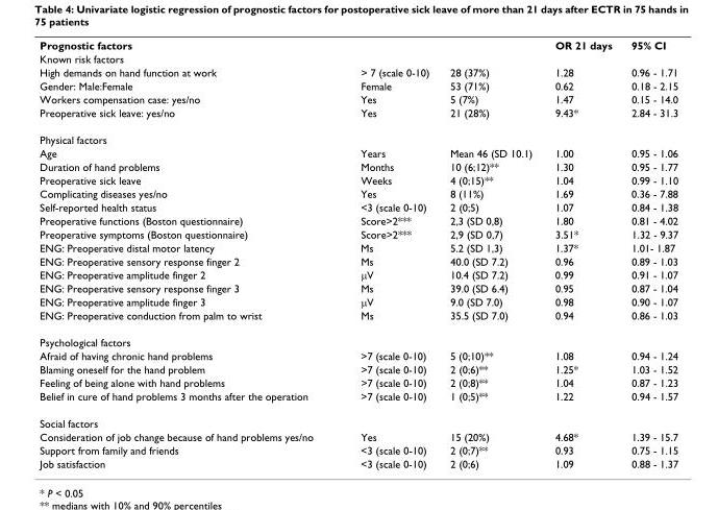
<table><tbody><tr><td>Prognostic factors</td><td></td><td></td><td>OR 21 days</td><td>95% CI</td></tr><tr><td colspan="5">Known risk factors</td></tr><tr><td>High demands on hand function at work</td><td>&gt; 7 (scale 0-10)</td><td>28 (37%)</td><td>1.28</td><td>0.96 - 1.71</td></tr><tr><td>Gender: Male:Female</td><td>Female</td><td>53 (71%)</td><td>0.62</td><td>0.18 - 2.15</td></tr><tr><td>Workers compensation case: yes/no</td><td>Yes</td><td>5 (7%)</td><td>1.47</td><td>0.15 - 14.0</td></tr><tr><td>Preoperative sick leave: yes/no</td><td>Yes</td><td>21 (28%)</td><td>9.43*</td><td>2.84 - 31.3</td></tr><tr><td colspan="5">Physical factors</td></tr><tr><td>Age</td><td>Years</td><td>Mean 46 (SD 10.1)</td><td>1.00</td><td>0.95 - 1.06</td></tr><tr><td>Duration of hand problems</td><td>Months</td><td>10 (6;12)**</td><td>1.30</td><td>0.95 - 1.77</td></tr><tr><td>Preoperative sick leave</td><td>Weeks</td><td>4 (0;15)**</td><td>1.04</td><td>0.99 - 1.10</td></tr><tr><td>Complicating diseases yes/no</td><td>Yes</td><td>8 (11%)</td><td>1.69</td><td>0.36 - 7.88</td></tr><tr><td>Self-reported health status</td><td>&lt;3 (scale 0-10)</td><td>2 (0;5)</td><td>1.07</td><td>0.84 - 1.38</td></tr><tr><td>Preoperative functions (Boston questionnaire)</td><td>Score&gt;2***</td><td>2,3 (SD 0,8)</td><td>1.80</td><td>0.81 - 4.02</td></tr><tr><td>Preoperative symptoms (Boston questionnaire)</td><td>Score&gt;2***</td><td>2,9 (SD 0,7)</td><td>3.51*</td><td>1.32 - 9.37</td></tr><tr><td>ENG: Preoperative distal motor latency</td><td>Ms</td><td>5.2 (SD 1,3)</td><td>1.37*</td><td>1.01- 1.87</td></tr><tr><td>ENG: Preoperative sensory response finger 2</td><td>Ms</td><td>40.0 (SD 7.2)</td><td>0.96</td><td>0.89 - 1.03</td></tr><tr><td>ENG: Preoperative amplitude finger 2</td><td>μV</td><td>10.4 (SD 7.2)</td><td>0.99</td><td>0.91 - 1.07</td></tr><tr><td>ENG: Preoperative sensory response finger 3</td><td>Ms</td><td>39.0 (SD 6.4)</td><td>0.95</td><td>0.87 - 1.04</td></tr><tr><td>ENG: Preoperative amplitude finger 3</td><td>μV</td><td>9.0 (SD 7.0)</td><td>0.98</td><td>0.90 - 1.07</td></tr><tr><td>ENG: Preoperative conduction from palm to wrist</td><td>Ms</td><td>35.5 (SD 7.0)</td><td>0.94</td><td>0.86 - 1.03</td></tr><tr><td colspan="5">Psychological factors</td></tr><tr><td>Afraid of having chronic hand problems</td><td>&gt;7 (scale 0-10)</td><td>5 (0;10)**</td><td>1.08</td><td>0.94 - 1.24</td></tr><tr><td>Blaming oneself for the hand problem</td><td>&gt;7 (scale 0-10)</td><td>2 (0;6)**</td><td>1.25*</td><td>1.03 - 1.52</td></tr><tr><td>Feeling of being alone with hand problems</td><td>&gt;7 (scale 0-10)</td><td>2 (0;8)**</td><td>1.04</td><td>0.87 - 1.23</td></tr><tr><td>Belief in cure of hand problems 3 months after the operation</td><td>&gt;7 (scale 0-10)</td><td>1 (0;5)**</td><td>1.22</td><td>0.94 - 1.57</td></tr><tr><td colspan="5">Social factors</td></tr><tr><td>Consideration of job change because of hand problems yes/no</td><td>Yes</td><td>15 (20%)</td><td>4.68*</td><td>1.39 - 15.7</td></tr><tr><td>Support from family and friends</td><td>&lt;3 (scale 0-10)</td><td>2 (0;7)**</td><td>0.93</td><td>0.75 - 1.15</td></tr><tr><td>Job satisfaction</td><td>&lt;3 (scale 0-10)</td><td>2 (0;6)</td><td>1.09</td><td>0.88 - 1.37</td></tr></tbody></table>